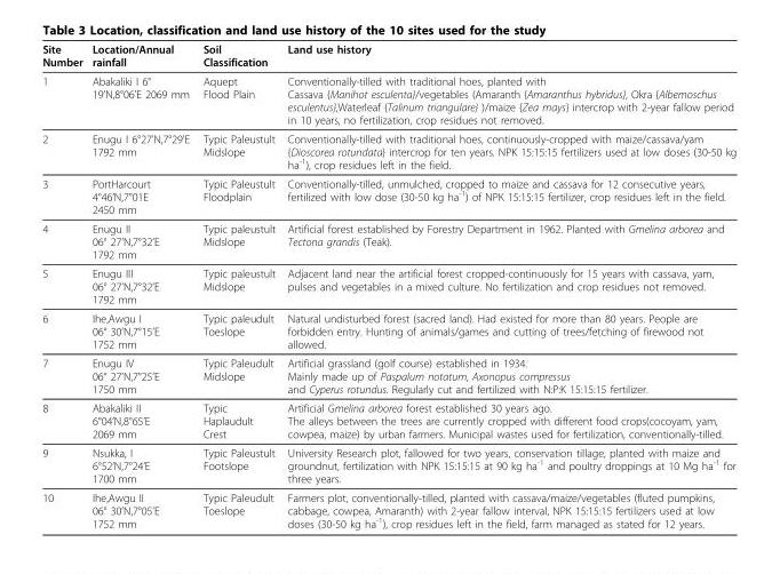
<table><thead><tr><td>Site Number</td><td>Location/Annual rainfall</td><td>Soil Classification</td><td>Land use history</td></tr></thead><tbody><tr><td>1</td><td>Abakaliki I 6° 19’N,8°06’E 2069 mm</td><td>Aquept Flood Plain</td><td>Conventionally-tilled with traditional hoes, planted with Cassava {Manihot esculenta}/vegetables (Amaranth {Amaranthus hybridus}, Okra {Albemoschus esculentus},Waterleaf {Talinum triangulare} )/maize {Zea mays} intercrop with 2-year fallow period in 10 years, no fertilization, crop residues not removed.</td></tr><tr><td>2</td><td>Enugu I 6°27’N,7°29’E 1792 mm</td><td>Typic Paleustult Midslope</td><td>Conventionally-tilled with traditional hoes, continuously-cropped with maize/cassava/yam {Dioscorea rotundata} intercrop for ten years. NPK 15:15:15 fertilizers used at low doses (30-50 kg ha<sup>-1</sup>), crop residues left in the field.</td></tr><tr><td>3</td><td>PortHarcourt 4°46’N,7°01E 2450 mm</td><td>Typic Paleustult Floodplain</td><td>Conventionally-tilled, unmulched, cropped to maize and cassava for 12 consecutive years, fertilized with low dose (30-50 kg ha<sup>-1</sup>) of NPK 15:15:15 fertilizer, crop residues left in the field.</td></tr><tr><td>4</td><td>Enugu II 06° 27’N,7°32’E 1792 mm</td><td>Typic paleustult Midslope</td><td>Artificial forest established by Forestry Department in 1962. Planted with Gmelina arborea and Tectona grandis (Teak).</td></tr><tr><td>5</td><td>Enugu III 06° 27’N,7°32’E 1792 mm</td><td>Typic paleustult Midslope</td><td>Adjacent land near the artificial forest cropped-continuously for 15 years with cassava, yam, pulses and vegetables in a mixed culture. No fertilization and crop residues not removed.</td></tr><tr><td>6</td><td>Ihe,Awgu I 06° 30’N,7°15’E 1752 mm</td><td>Typic paleudult Toeslope</td><td>Natural undisturbed forest (sacred land). Had existed for more than 80 years. People are forbidden entry. Hunting of animals/games and cutting of trees/fetching of firewood not allowed.</td></tr><tr><td>7</td><td>Enugu IV 06° 27’N,7°25’E 1750 mm</td><td>Typic Paleudult Midslope</td><td>Artificial grassland (golf course) established in 1934. Mainly made up of Paspalum notatum, Axonopus compressus and Cyperus rotundus. Regularly cut and fertilized with N:P:K 15:15:15 fertilizer.</td></tr><tr><td>8</td><td>Abakaliki II 6°04’N,8°65’E 2069 mm</td><td>Typic Haplaudult Crest</td><td>Artificial Gmelina arborea forest established 30 years ago. The alleys between the trees are currently cropped with different food crops(cocoyam, yam, cowpea, maize) by urban farmers. Municipal wastes used for fertilization, conventionally-tilled.</td></tr><tr><td>9</td><td>Nsukka, I 6°52’N,7°24’E 1700 mm</td><td>Typic Paleustult Footslope</td><td>University Research plot, fallowed for two years, conservation tillage, planted with maize and groundnut, fertilization with NPK 15:15:15 at 90 kg ha<sup>-1</sup> and poultry droppings at 10 Mg ha<sup>-1</sup> for three years.</td></tr><tr><td>10</td><td>Ihe,Awgu II 06° 30’N,7°05’E 1752 mm</td><td>Typic Paleudult Toeslope</td><td>Farmers plot, conventionally-tilled, planted with cassava/maize/vegetables (fluted pumpkins, cabbage, cowpea, Amaranth) with 2-year fallow interval, NPK 15:15:15 fertilizers used at low doses (30-50 kg ha<sup>-1</sup>), crop residues left in the field, farm managed as stated for 12 years.</td></tr></tbody></table>